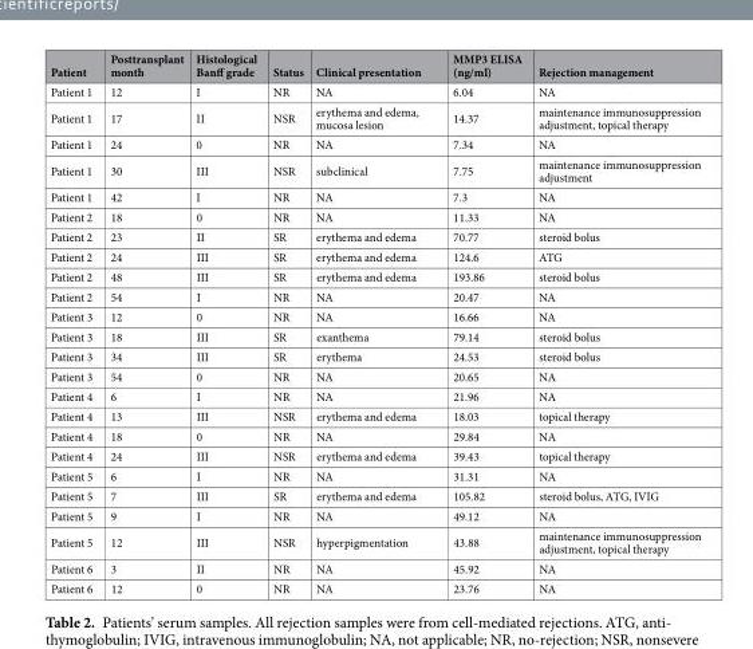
<table><thead><tr><td>Patient</td><td>Posttransplant month</td><td>Histological Banff grade</td><td>Status</td><td>Clinical presentation</td><td>MMP3 ELISA (ng/ml)</td><td>Rejection management</td></tr></thead><tbody><tr><td>Patient 1</td><td>12</td><td>I</td><td>NR</td><td>NA</td><td>6.04</td><td>NA</td></tr><tr><td>Patient 1</td><td>17</td><td>II</td><td>NSR</td><td>erythema and edema, mucosa lesion</td><td>14.37</td><td>maintenance immunosuppression adjustment, topical therapy</td></tr><tr><td>Patient 1</td><td>24</td><td>0</td><td>NR</td><td>NA</td><td>7.34</td><td>NA</td></tr><tr><td>Patient 1</td><td>30</td><td>III</td><td>NSR</td><td>subclinical</td><td>7.75</td><td>maintenance immunosuppression adjustment</td></tr><tr><td>Patient 1</td><td>42</td><td>I</td><td>NR</td><td>NA</td><td>7.3</td><td>NA</td></tr><tr><td>Patient 2</td><td>18</td><td>0</td><td>NR</td><td>NA</td><td>11.33</td><td>NA</td></tr><tr><td>Patient 2</td><td>23</td><td>II</td><td>SR</td><td>erythema and edema</td><td>70.77</td><td>steroid bolus</td></tr><tr><td>Patient 2</td><td>24</td><td>III</td><td>SR</td><td>erythema and edema</td><td>124.6</td><td>ATG</td></tr><tr><td>Patient 2</td><td>48</td><td>III</td><td>SR</td><td>erythema and edema</td><td>193.86</td><td>steroid bolus</td></tr><tr><td>Patient 2</td><td>54</td><td>I</td><td>NR</td><td>NA</td><td>20.47</td><td>NA</td></tr><tr><td>Patient 3</td><td>12</td><td>0</td><td>NR</td><td>NA</td><td>16.66</td><td>NA</td></tr><tr><td>Patient 3</td><td>18</td><td>III</td><td>SR</td><td>exanthema</td><td>79.14</td><td>steroid bolus</td></tr><tr><td>Patient 3</td><td>34</td><td>III</td><td>SR</td><td>erythema</td><td>24.53</td><td>steroid bolus</td></tr><tr><td>Patient 3</td><td>54</td><td>0</td><td>NR</td><td>NA</td><td>20.65</td><td>NA</td></tr><tr><td>Patient 4</td><td>6</td><td>I</td><td>NR</td><td>NA</td><td>21.96</td><td>NA</td></tr><tr><td>Patient 4</td><td>13</td><td>III</td><td>NSR</td><td>erythema and edema</td><td>18.03</td><td>topical therapy</td></tr><tr><td>Patient 4</td><td>18</td><td>0</td><td>NR</td><td>NA</td><td>29.84</td><td>NA</td></tr><tr><td>Patient 4</td><td>24</td><td>III</td><td>NSR</td><td>erythema and edema</td><td>39.43</td><td>topical therapy</td></tr><tr><td>Patient 5</td><td>6</td><td>I</td><td>NR</td><td>NA</td><td>31.31</td><td>NA</td></tr><tr><td>Patient 5</td><td>7</td><td>III</td><td>SR</td><td>erythema and edema</td><td>105.82</td><td>steroid bolus, ATG, IVIG</td></tr><tr><td>Patient 5</td><td>9</td><td>I</td><td>NR</td><td>NA</td><td>49.12</td><td>NA</td></tr><tr><td>Patient 5</td><td>12</td><td>III</td><td>NSR</td><td>hyperpigmentation</td><td>43.88</td><td>maintenance immunosuppression adjustment, topical therapy</td></tr><tr><td>Patient 6</td><td>3</td><td>II</td><td>NR</td><td>NA</td><td>45.92</td><td>NA</td></tr><tr><td>Patient 6</td><td>12</td><td>0</td><td>NR</td><td>NA</td><td>23.76</td><td>NA</td></tr></tbody></table>